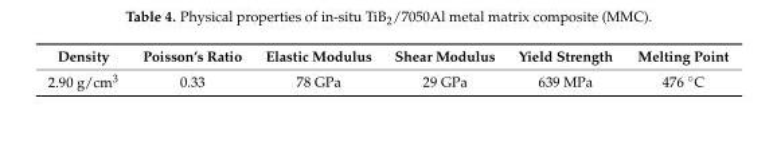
<table><thead><tr><td>Density</td><td>Poisson’s Ratio</td><td>Elastic Modulus</td><td>Shear Modulus</td><td>Yield Strength</td><td>Melting Point</td></tr></thead><tbody><tr><td>2.90 g/cm<sup>3</sup></td><td>0.33</td><td>78 GPa</td><td>29 GPa</td><td>639 MPa</td><td>476 ◦C</td></tr></tbody></table>